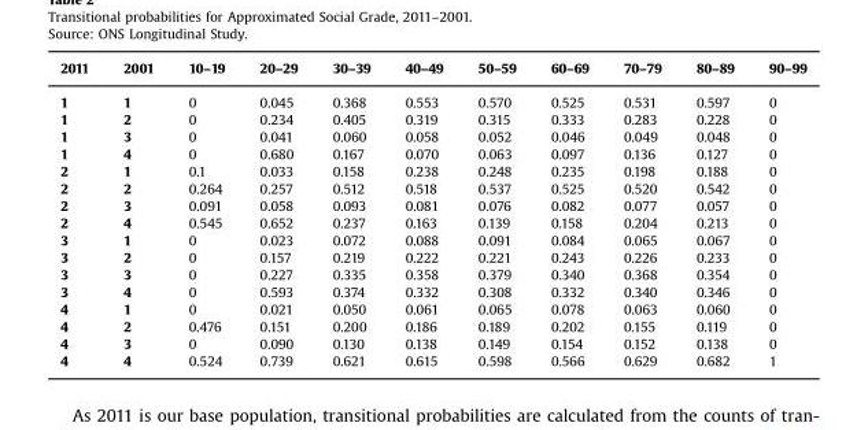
<table><thead><tr><td>2011</td><td>2001</td><td>10–19</td><td>20–29</td><td>30–39</td><td>40–49</td><td>50–59</td><td>60–69</td><td>70–79</td><td>80–89</td><td>90–99</td></tr></thead><tbody><tr><td>1</td><td>1</td><td>0</td><td>0.045</td><td>0.368</td><td>0.553</td><td>0.570</td><td>0.525</td><td>0.531</td><td>0.597</td><td>0</td></tr><tr><td>1</td><td>2</td><td>0</td><td>0.234</td><td>0.405</td><td>0.319</td><td>0.315</td><td>0.333</td><td>0.283</td><td>0.228</td><td>0</td></tr><tr><td>1</td><td>3</td><td>0</td><td>0.041</td><td>0.060</td><td>0.058</td><td>0.052</td><td>0.046</td><td>0.049</td><td>0.048</td><td>0</td></tr><tr><td>1</td><td>4</td><td>0</td><td>0.680</td><td>0.167</td><td>0.070</td><td>0.063</td><td>0.097</td><td>0.136</td><td>0.127</td><td>0</td></tr><tr><td>2</td><td>1</td><td>0.1</td><td>0.033</td><td>0.158</td><td>0.238</td><td>0.248</td><td>0.235</td><td>0.198</td><td>0.188</td><td>0</td></tr><tr><td>2</td><td>2</td><td>0.264</td><td>0.257</td><td>0.512</td><td>0.518</td><td>0.537</td><td>0.525</td><td>0.520</td><td>0.542</td><td>0</td></tr><tr><td>2</td><td>3</td><td>0.091</td><td>0.058</td><td>0.093</td><td>0.081</td><td>0.076</td><td>0.082</td><td>0.077</td><td>0.057</td><td>0</td></tr><tr><td>2</td><td>4</td><td>0.545</td><td>0.652</td><td>0.237</td><td>0.163</td><td>0.139</td><td>0.158</td><td>0.204</td><td>0.213</td><td>0</td></tr><tr><td>3</td><td>1</td><td>0</td><td>0.023</td><td>0.072</td><td>0.088</td><td>0.091</td><td>0.084</td><td>0.065</td><td>0.067</td><td>0</td></tr><tr><td>3</td><td>2</td><td>0</td><td>0.157</td><td>0.219</td><td>0.222</td><td>0.221</td><td>0.243</td><td>0.226</td><td>0.233</td><td>0</td></tr><tr><td>3</td><td>3</td><td>0</td><td>0.227</td><td>0.335</td><td>0.358</td><td>0.379</td><td>0.340</td><td>0.368</td><td>0.354</td><td>0</td></tr><tr><td>3</td><td>4</td><td>0</td><td>0.593</td><td>0.374</td><td>0.332</td><td>0.308</td><td>0.332</td><td>0.340</td><td>0.346</td><td>0</td></tr><tr><td>4</td><td>1</td><td>0</td><td>0.021</td><td>0.050</td><td>0.061</td><td>0.065</td><td>0.078</td><td>0.063</td><td>0.060</td><td>0</td></tr><tr><td>4</td><td>2</td><td>0.476</td><td>0.151</td><td>0.200</td><td>0.186</td><td>0.189</td><td>0.202</td><td>0.155</td><td>0.119</td><td>0</td></tr><tr><td>4</td><td>3</td><td>0</td><td>0.090</td><td>0.130</td><td>0.138</td><td>0.149</td><td>0.154</td><td>0.152</td><td>0.138</td><td>0</td></tr><tr><td>4</td><td>4</td><td>0.524</td><td>0.739</td><td>0.621</td><td>0.615</td><td>0.598</td><td>0.566</td><td>0.629</td><td>0.682</td><td>1</td></tr></tbody></table>